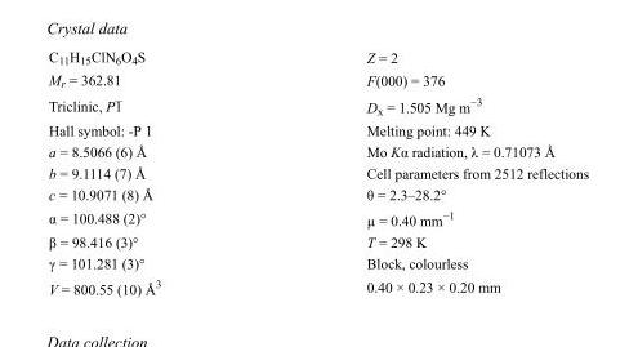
<table><tbody><tr><td>C<sub>11</sub>H<sub>15</sub>ClN<sub>6</sub>O<sub>4</sub>S</td><td>Z = 2</td></tr><tr><td>M<sub>r</sub> = 362.81</td><td>F(000) = 376</td></tr><tr><td>Triclinic, P1</td><td>D<sub>x</sub> = 1.505 Mg m<sup>−3</sup></td></tr><tr><td>Hall symbol: -P 1</td><td>Melting point: 449 K</td></tr><tr><td>a = 8.5066 (6) Å</td><td>Mo Kα radiation, λ = 0.71073 Å</td></tr><tr><td>b = 9.1114 (7) Å</td><td>Cell parameters from 2512 reflections</td></tr><tr><td>c = 10.9071 (8) Å</td><td>θ = 2.3–28.2°</td></tr><tr><td>α = 100.488 (2)°</td><td>µ = 0.40 mm<sup>−1</sup></td></tr><tr><td>β = 98.416 (3)°</td><td>T = 298 K</td></tr><tr><td>γ = 101.281 (3)°</td><td>Block, colourless</td></tr><tr><td>V = 800.55 (10) Å<sup>3</sup></td><td>0.40 × 0.23 × 0.20 mm</td></tr></tbody></table>